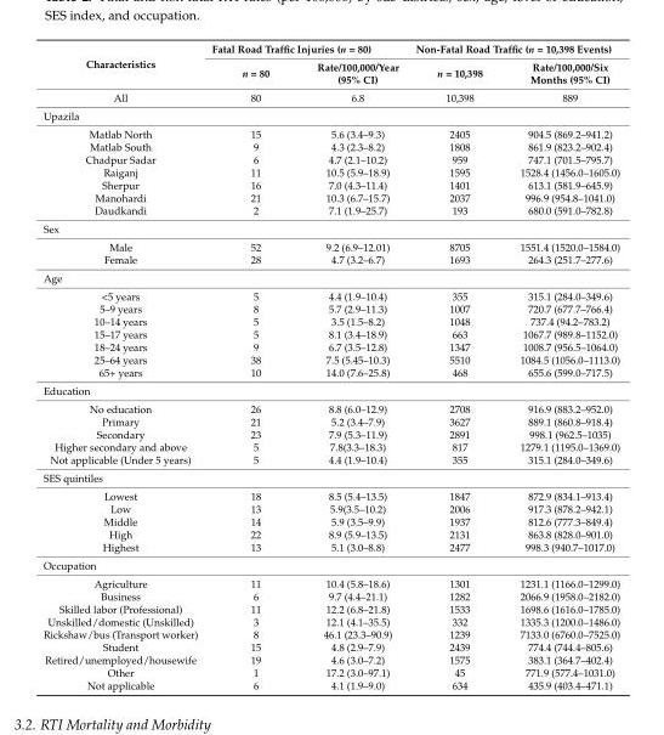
<table><thead><tr><td rowspan="2">Characteristics</td><td colspan="2">Fatal Road Traffic Injuries (n = 80)</td><td colspan="2">Non-Fatal Road Traffic (n = 10,398 Events)</td></tr><tr><td>n = 80</td><td>Rate/100,000/Year (95% CI)</td><td>n = 10,398</td><td>Rate/100,000/Six Months (95% CI)</td></tr></thead><tbody><tr><td>All</td><td>80</td><td>6.8</td><td>10,398</td><td>889</td></tr><tr><td colspan="5">Upazila</td></tr><tr><td>Matlab North</td><td>15</td><td>5.6 (3.4–9.3)</td><td>2405</td><td>904.5 (869.2–941.2)</td></tr><tr><td>Matlab South</td><td>9</td><td>4.3 (2.3–8.2)</td><td>1808</td><td>861.9 (823.2–902.4)</td></tr><tr><td>Chadpur Sadar</td><td>6</td><td>4.7 (2.1–10.2)</td><td>959</td><td>747.1 (701.5–795.7)</td></tr><tr><td>Raiganj</td><td>11</td><td>10.5 (5.9–18.9)</td><td>1595</td><td>1528.4 (1456.0–1605.0)</td></tr><tr><td>Sherpur</td><td>16</td><td>7.0 (4.3–11.4)</td><td>1401</td><td>613.1 (581.9–645.9)</td></tr><tr><td>Manohardi</td><td>21</td><td>10.3 (6.7–15.7)</td><td>2037</td><td>996.9 (954.8–1041.0)</td></tr><tr><td>Daudkandi</td><td>2</td><td>7.1 (1.9–25.7)</td><td>193</td><td>680.0 (591.0–782.8)</td></tr><tr><td colspan="5">Sex</td></tr><tr><td>Male</td><td>52</td><td>9.2 (6.9–12.01)</td><td>8705</td><td>1551.4 (1520.0–1584.0)</td></tr><tr><td>Female</td><td>28</td><td>4.7 (3.2–6.7)</td><td>1693</td><td>264.3 (251.7–277.6)</td></tr><tr><td colspan="5">Age</td></tr><tr><td>&lt;5 years</td><td>5</td><td>4.4 (1.9–10.4)</td><td>355</td><td>315.1 (284.0–349.6)</td></tr><tr><td>5–9 years</td><td>8</td><td>5.7 (2.9–11.3)</td><td>1007</td><td>720.7 (677.7–766.4)</td></tr><tr><td>10–14 years</td><td>5</td><td>3.5 (1.5–8.2)</td><td>1048</td><td>737.4 (94.2–783.2)</td></tr><tr><td>15–17 years</td><td>5</td><td>8.1 (3.4–18.9)</td><td>663</td><td>1067.7 (989.8–1152.0)</td></tr><tr><td>18–24 years</td><td>9</td><td>6.7 (3.5–12.8)</td><td>1347</td><td>1008.7 (956.5–1064.0)</td></tr><tr><td>25–64 years</td><td>38</td><td>7.5 (5.45–10.3)</td><td>5510</td><td>1084.5 (1056.0–1113.0)</td></tr><tr><td>65+ years</td><td>10</td><td>14.0 (7.6–25.8)</td><td>468</td><td>655.6 (599.0–717.5)</td></tr><tr><td colspan="5">Education</td></tr><tr><td>No education</td><td>26</td><td>8.8 (6.0–12.9)</td><td>2708</td><td>916.9 (883.2–952.0)</td></tr><tr><td>Primary</td><td>21</td><td>5.2 (3.4–7.9)</td><td>3627</td><td>889.1 (860.8–918.4)</td></tr><tr><td>Secondary</td><td>23</td><td>7.9 (5.3–11.9)</td><td>2891</td><td>998.1 (962.5–1035)</td></tr><tr><td>Higher secondary and above</td><td>5</td><td>7.8(3.3–18.3)</td><td>817</td><td>1279.1 (1195.0–1369.0)</td></tr><tr><td>Not applicable (Under 5 years)</td><td>5</td><td>4.4 (1.9–10.4)</td><td>355</td><td>315.1 (284.0–349.6)</td></tr><tr><td colspan="5">SES quintiles</td></tr><tr><td>Lowest</td><td>18</td><td>8.5 (5.4–13.5)</td><td>1847</td><td>872.9 (834.1–913.4)</td></tr><tr><td>Low</td><td>13</td><td>5.9(3.5–10.2)</td><td>2006</td><td>917.3 (878.2–942.1)</td></tr><tr><td>Middle</td><td>14</td><td>5.9 (3.5–9.9)</td><td>1937</td><td>812.6 (777.3–849.4)</td></tr><tr><td>High</td><td>22</td><td>8.9 (5.9–13.5)</td><td>2131</td><td>863.8 (828.0–901.0)</td></tr><tr><td>Highest</td><td>13</td><td>5.1 (3.0–8.8)</td><td>2477</td><td>998.3 (940.7–1017.0)</td></tr><tr><td colspan="5">Occupation</td></tr><tr><td>Agriculture</td><td>11</td><td>10.4 (5.8–18.6)</td><td>1301</td><td>1231.1 (1166.0–1299.0)</td></tr><tr><td>Business</td><td>6</td><td>9.7 (4.4–21.1)</td><td>1282</td><td>2066.9 (1958.0–2182.0)</td></tr><tr><td>Skilled labor (Professional)</td><td>11</td><td>12.2 (6.8–21.8)</td><td>1533</td><td>1698.6 (1616.0–1785.0)</td></tr><tr><td>Unskilled/domestic (Unskilled)</td><td>3</td><td>12.1 (4.1–35.5)</td><td>332</td><td>1335.3 (1200.0–1486.0)</td></tr><tr><td>Rickshaw/bus (Transport worker)</td><td>8</td><td>46.1 (23.3–90.9)</td><td>1239</td><td>7133.0 (6760.0–7525.0)</td></tr><tr><td>Student</td><td>15</td><td>4.8 (2.9–7.9)</td><td>2439</td><td>774.4 (744.4–805.6)</td></tr><tr><td>Retired/unemployed/housewife</td><td>19</td><td>4.6 (3.0–7.2)</td><td>1575</td><td>383.1 (364.7–402.4)</td></tr><tr><td>Other</td><td>1</td><td>17.2 (3.0–97.1)</td><td>45</td><td>771.9 (577.4–1031.0)</td></tr><tr><td>Not applicable</td><td>6</td><td>4.1 (1.9–9.0)</td><td>634</td><td>435.9 (403.4–471.1)</td></tr></tbody></table>